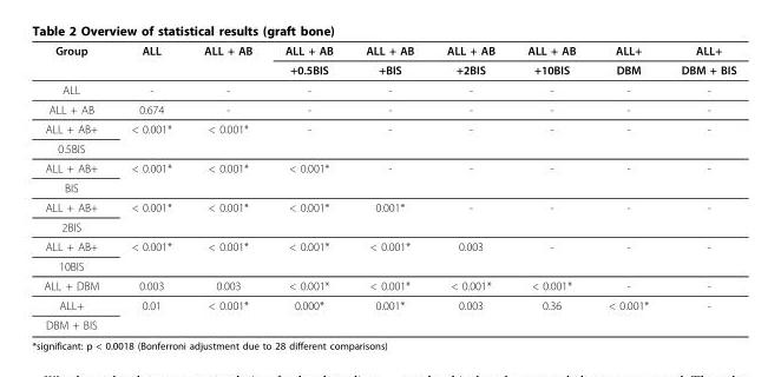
<table><thead><tr><td rowspan="2">Group</td><td rowspan="2">ALL</td><td rowspan="2">ALL + AB</td><td rowspan="2">ALL + AB +0.5BIS</td><td rowspan="2">ALL + AB +BIS</td><td rowspan="2">ALL + AB +2BIS</td><td rowspan="2">ALL + AB +10BIS</td><td rowspan="2">ALL+ DBM</td><td rowspan="2">ALL+ DBM + BIS</td></tr><tr></tr></thead><tbody><tr><td>ALL</td><td>-</td><td>-</td><td>-</td><td>-</td><td>-</td><td>-</td><td>-</td><td>-</td></tr><tr><td>ALL + AB</td><td>0.674</td><td>-</td><td>-</td><td>-</td><td>-</td><td>-</td><td>-</td><td>-</td></tr><tr><td>ALL + AB+</td><td>&lt; 0.001*</td><td>&lt; 0.001*</td><td>-</td><td>-</td><td>-</td><td>-</td><td>-</td><td>-</td></tr><tr><td colspan="9">0.5BIS</td></tr><tr><td>ALL + AB+</td><td>&lt; 0.001*</td><td>&lt; 0.001*</td><td>&lt; 0.001*</td><td>-</td><td>-</td><td>-</td><td>-</td><td>-</td></tr><tr><td colspan="9">BIS</td></tr><tr><td>ALL + AB+</td><td>&lt; 0.001*</td><td>&lt; 0.001*</td><td>&lt; 0.001*</td><td>0.001*</td><td>-</td><td>-</td><td>-</td><td>-</td></tr><tr><td colspan="9">2BIS</td></tr><tr><td>ALL + AB+</td><td>&lt; 0.001*</td><td>&lt; 0.001*</td><td>&lt; 0.001*</td><td>&lt; 0.001*</td><td>0.003</td><td>-</td><td>-</td><td>-</td></tr><tr><td colspan="9">10BIS</td></tr><tr><td>ALL + DBM</td><td>0.003</td><td>0.003</td><td>&lt; 0.001*</td><td>&lt; 0.001*</td><td>&lt; 0.001*</td><td>&lt; 0.001*</td><td>-</td><td>-</td></tr><tr><td>ALL+</td><td>0.01</td><td>&lt; 0.001*</td><td>0.000*</td><td>0.001*</td><td>0.003</td><td>0.36</td><td>&lt; 0.001*</td><td>-</td></tr><tr><td>DBM + BIS</td><td></td><td></td><td></td><td></td><td></td><td></td><td></td><td></td></tr></tbody></table>